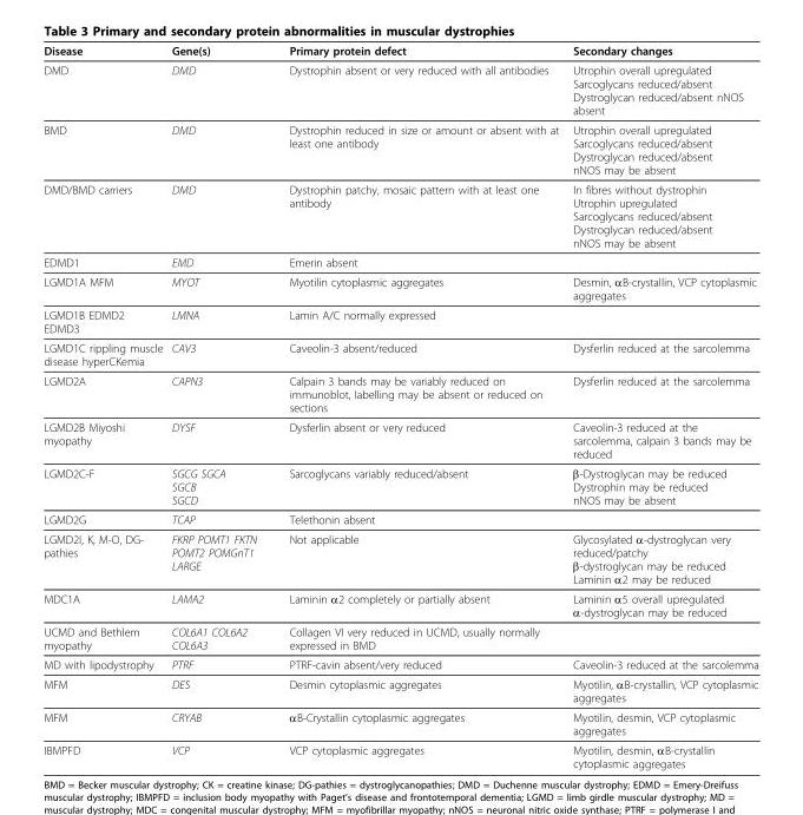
<table><thead><tr><td>Disease</td><td>Gene(s)</td><td>Primary protein defect</td><td>Secondary changes</td></tr></thead><tbody><tr><td>DMD</td><td>DMD</td><td>Dystrophin absent or very reduced with all antibodies</td><td>Utrophin overall upregulated Sarcoglycans reduced/absent Dystroglycan reduced/absent nNOS absent</td></tr><tr><td>BMD</td><td>DMD</td><td>Dystrophin reduced in size or amount or absent with at least one antibody</td><td>Utrophin overall upregulated Sarcoglycans reduced/absent Dystroglycan reduced/absent nNOS may be absent</td></tr><tr><td>DMD/BMD carriers</td><td>DMD</td><td>Dystrophin patchy, mosaic pattern with at least one antibody</td><td>In fibres without dystrophin Utrophin upregulated Sarcoglycans reduced/absent Dystroglycan reduced/absent nNOS may be absent</td></tr><tr><td>EDMD1</td><td>EMD</td><td>Emerin absent</td><td></td></tr><tr><td>LGMD1A MFM</td><td>MYOT</td><td>Myotilin cytoplasmic aggregates</td><td>Desmin, αB-crystallin, VCP cytoplasmic aggregates</td></tr><tr><td>LGMD1B EDMD2 EDMD3</td><td>LMNA</td><td>Lamin A/C normally expressed</td><td></td></tr><tr><td>LGMD1C rippling muscle disease hyperCKemia</td><td>CAV3</td><td>Caveolin-3 absent/reduced</td><td>Dysferlin reduced at the sarcolemma</td></tr><tr><td>LGMD2A</td><td>CAPN3</td><td>Calpain 3 bands may be variably reduced on immunoblot, Iabelling may be absent or reduced on sections</td><td>Dysferlin reduced at the sarcolemma</td></tr><tr><td>LGMD2B Miyoshi myopathy</td><td>DYSF</td><td>Dysferlin absent or very reduced</td><td>Caveolin-3 reduced at the sarcolemma, calpain 3 bands may be reduced</td></tr><tr><td>LGMD2C-F</td><td>SGCG SGCA SGCB SGCD</td><td>Sarcoglycans variably reduced/absent</td><td>β-Dystroglycan may be reduced Dystrophin may be reduced nNOS may be absent</td></tr><tr><td>LGMD2G</td><td>TCAP</td><td>Telethonin absent</td><td></td></tr><tr><td>LGMD2I, K, M-O, DG- pathies</td><td>FKRP POMT1 FKTN POMT2 POMGnT1 LARGE</td><td>Not applicable</td><td>Glycosylated α-dystroglycan very reduced/patchy β-dystroglycan may be reduced Laminin α2 may be reduced</td></tr><tr><td>MDC1A</td><td>LAMA2</td><td>Laminin α2 completely or partially absent</td><td>Laminin α5 overall upregulated α-dystroglycan may be reduced</td></tr><tr><td>UCMD and Bethlem myopathy</td><td>COL6A1 COL6A2 COL6A3</td><td>Collagen VI very reduced in UCMD, usually normally expressed in BMD</td><td></td></tr><tr><td>MD with lipodystrophy</td><td>PTRF</td><td>PTRF-cavin absent/very reduced</td><td>Caveolin-3 reduced at the sarcolemma</td></tr><tr><td>MFM</td><td>DES</td><td>Desmin cytoplasmic aggregates</td><td>Myotilin, αB-crystallin, VCP cytoplasmic aggregates</td></tr><tr><td>MFM</td><td>CRYAB</td><td>αB-Crystallin cytoplasmic aggregates</td><td>Myotilin, desmin, VCP cytoplasmic aggregates</td></tr><tr><td>IBMPFD</td><td>VCP</td><td>VCP cytoplasmic aggregates</td><td>Myotilin, desmin, αB-crystallin cytoplasmic aggregates</td></tr></tbody></table>